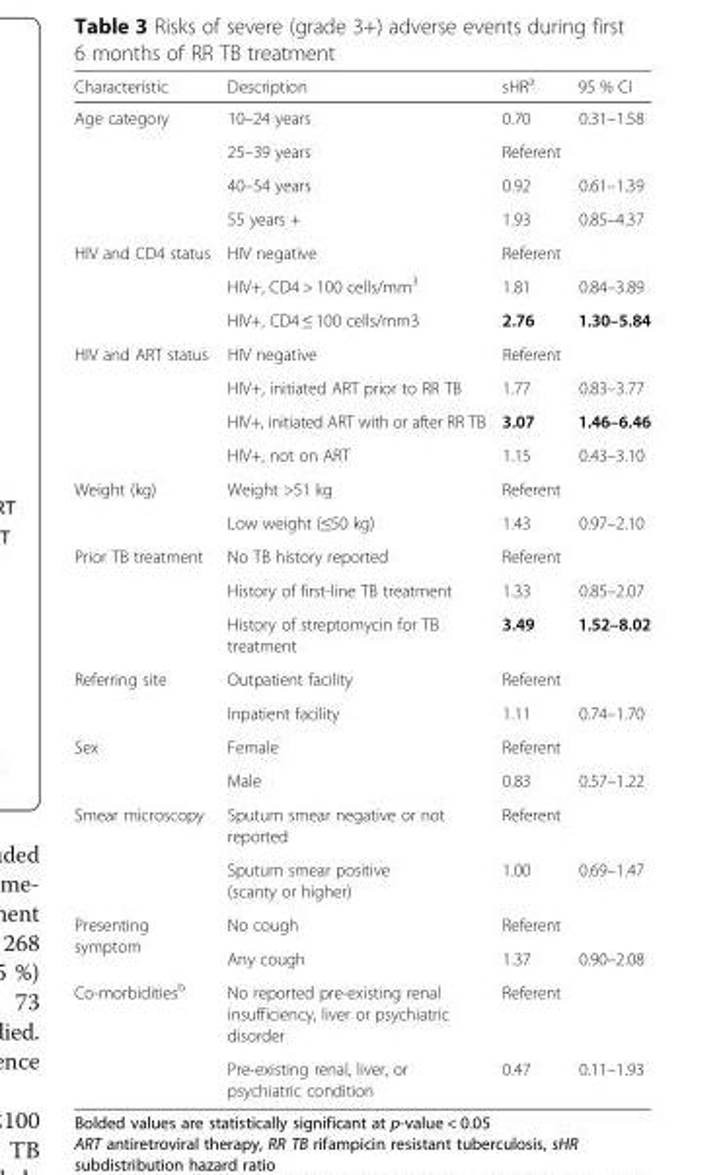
<table><thead><tr><td>Characteristic</td><td>Description</td><td>sHR<sup>a</sup></td><td>95 % CI</td></tr></thead><tbody><tr><td rowspan="4">Age category</td><td>10–24 years</td><td>0.70</td><td>0.31–1.58</td></tr><tr><td>25–39 years</td><td>Referent</td><td></td></tr><tr><td>40–54 years</td><td>0.92</td><td>0.61–1.39</td></tr><tr><td>55 years +</td><td>1.93</td><td>0.85–4.37</td></tr><tr><td rowspan="3">HIV and CD4 status</td><td>HIV negative</td><td>Referent</td><td></td></tr><tr><td>HIV+, CD4 &gt; 100 cells/mm<sup>3</sup></td><td>1.81</td><td>0.84–3.89</td></tr><tr><td>HIV+, CD4 ≤ 100 cells/mm3</td><td>2.76</td><td>1.30–5.84</td></tr><tr><td rowspan="4">HIV and ART status</td><td>HIV negative</td><td>Referent</td><td></td></tr><tr><td>HIV+, initiated ART prior to RR TB</td><td>1.77</td><td>0.83–3.77</td></tr><tr><td>HIV+, initiated ART with or after RR TB</td><td>3.07</td><td>1.46–6.46</td></tr><tr><td>HIV+, not on ART</td><td>1.15</td><td>0.43–3.10</td></tr><tr><td rowspan="2">Weight (kg)</td><td>Weight &gt;51 kg</td><td>Referent</td><td></td></tr><tr><td>Low weight (≤50 kg)</td><td>1.43</td><td>0.97–2.10</td></tr><tr><td rowspan="3">Prior TB treatment</td><td>No TB history reported</td><td>Referent</td><td></td></tr><tr><td>History of first-line TB treatment</td><td>1.33</td><td>0.85–2.07</td></tr><tr><td>History of streptomycin for TB treatment</td><td>3.49</td><td>1.52–8.02</td></tr><tr><td rowspan="2">Referring site</td><td>Outpatient facility</td><td>Referent</td><td></td></tr><tr><td>Inpatient facility</td><td>1.11</td><td>0.74–1.70</td></tr><tr><td rowspan="2">Sex</td><td>Female</td><td>Referent</td><td></td></tr><tr><td>Male</td><td>0.83</td><td>0.57–1.22</td></tr><tr><td rowspan="2">Smear microscopy</td><td>Sputum smear negative or not reported</td><td>Referent</td><td></td></tr><tr><td>Sputum smear positive (scanty or higher)</td><td>1.00</td><td>0.69–1.47</td></tr><tr><td rowspan="2">Presenting symptom</td><td>No cough</td><td>Referent</td><td></td></tr><tr><td>Any cough</td><td>1.37</td><td>0.90–2.08</td></tr><tr><td rowspan="2">Co-morbidities<sup>b</sup></td><td>No reported pre-existing renal insufficiency, liver or psychiatric disorder</td><td>Referent</td><td></td></tr><tr><td>Pre-existing renal, liver, or psychiatric condition</td><td>0.47</td><td>0.11–1.93</td></tr></tbody></table>